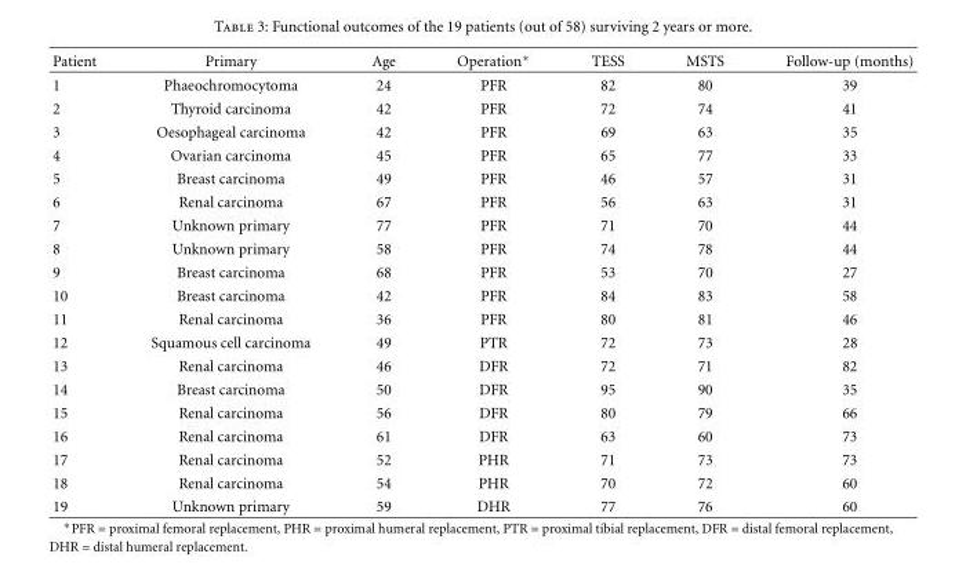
<table><tbody><tr><td>Patient</td><td>Primary</td><td>Age</td><td>Operation∗</td><td>TESS</td><td>MSTS</td><td>Follow-up (months)</td></tr><tr><td>1</td><td>Phaeochromocytoma</td><td>24</td><td>PFR</td><td>82</td><td>80</td><td>39</td></tr><tr><td>2</td><td>Thyroid carcinoma</td><td>42</td><td>PFR</td><td>72</td><td>74</td><td>41</td></tr><tr><td>3</td><td>Oesophageal carcinoma</td><td>42</td><td>PFR</td><td>69</td><td>63</td><td>35</td></tr><tr><td>4</td><td>Ovarian carcinoma</td><td>45</td><td>PFR</td><td>65</td><td>77</td><td>33</td></tr><tr><td>5</td><td>Breast carcinoma</td><td>49</td><td>PFR</td><td>46</td><td>57</td><td>31</td></tr><tr><td>6</td><td>Renal carcinoma</td><td>67</td><td>PFR</td><td>56</td><td>63</td><td>31</td></tr><tr><td>7</td><td>Unknown primary</td><td>77</td><td>PFR</td><td>71</td><td>70</td><td>44</td></tr><tr><td>8</td><td>Unknown primary</td><td>58</td><td>PFR</td><td>74</td><td>78</td><td>44</td></tr><tr><td>9</td><td>Breast carcinoma</td><td>68</td><td>PFR</td><td>53</td><td>70</td><td>27</td></tr><tr><td>10</td><td>Breast carcinoma</td><td>42</td><td>PFR</td><td>84</td><td>83</td><td>58</td></tr><tr><td>11</td><td>Renal carcinoma</td><td>36</td><td>PFR</td><td>80</td><td>81</td><td>46</td></tr><tr><td>12</td><td>Squamous cell carcinoma</td><td>49</td><td>PTR</td><td>72</td><td>73</td><td>28</td></tr><tr><td>13</td><td>Renal carcinoma</td><td>46</td><td>DFR</td><td>72</td><td>71</td><td>82</td></tr><tr><td>14</td><td>Breast carcinoma</td><td>50</td><td>DFR</td><td>95</td><td>90</td><td>35</td></tr><tr><td>15</td><td>Renal carcinoma</td><td>56</td><td>DFR</td><td>80</td><td>79</td><td>66</td></tr><tr><td>16</td><td>Renal carcinoma</td><td>61</td><td>DFR</td><td>63</td><td>60</td><td>73</td></tr><tr><td>17</td><td>Renal carcinoma</td><td>52</td><td>PHR</td><td>71</td><td>73</td><td>73</td></tr><tr><td>18</td><td>Renal carcinoma</td><td>54</td><td>PHR</td><td>70</td><td>72</td><td>60</td></tr><tr><td>19</td><td>Unknown primary</td><td>59</td><td>DHR</td><td>77</td><td>76</td><td>60</td></tr></tbody></table>